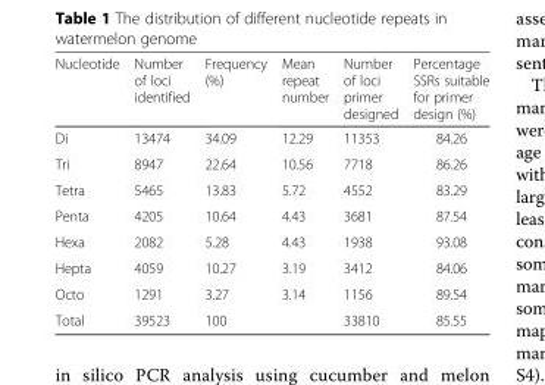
<table><thead><tr><td>Nucleotide</td><td>Number of loci identified</td><td>Frequency (%)</td><td>Mean repeat number</td><td>Number of loci primer designed</td><td>Percentage SSRs suitable for primer design (%)</td></tr></thead><tbody><tr><td>Di</td><td>13474</td><td>34.09</td><td>12.29</td><td>11353</td><td>84.26</td></tr><tr><td>Tri</td><td>8947</td><td>22.64</td><td>10.56</td><td>7718</td><td>86.26</td></tr><tr><td>Tetra</td><td>5465</td><td>13.83</td><td>5.72</td><td>4552</td><td>83.29</td></tr><tr><td>Penta</td><td>4205</td><td>10.64</td><td>4.43</td><td>3681</td><td>87.54</td></tr><tr><td>Hexa</td><td>2082</td><td>5.28</td><td>4.43</td><td>1938</td><td>93.08</td></tr><tr><td>Hepta</td><td>4059</td><td>10.27</td><td>3.19</td><td>3412</td><td>84.06</td></tr><tr><td>Octo</td><td>1291</td><td>3.27</td><td>3.14</td><td>1156</td><td>89.54</td></tr><tr><td>Total</td><td>39523</td><td>100</td><td></td><td>33810</td><td>85.55</td></tr></tbody></table>